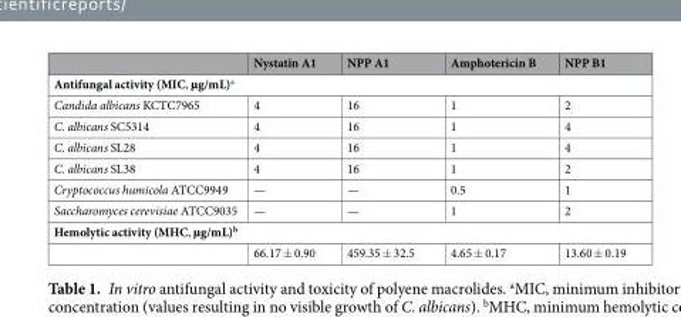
<table><thead><tr><td></td><td>Nystatin A1</td><td>NPP A1</td><td>Amphotericin B</td><td>NPP B1</td></tr></thead><tbody><tr><td colspan="5">Antifungal activity (MIC, µg/mL)<sup>a</sup></td></tr><tr><td>Candida albicans KCTC7965</td><td>4</td><td>16</td><td>1</td><td>2</td></tr><tr><td>C. albicans SC5314</td><td>4</td><td>16</td><td>1</td><td>4</td></tr><tr><td>C. albicans SL28</td><td>4</td><td>16</td><td>1</td><td>4</td></tr><tr><td>C. albicans SL38</td><td>4</td><td>16</td><td>1</td><td>2</td></tr><tr><td>Cryptococcus humicola ATCC9949</td><td>—</td><td>—</td><td>0.5</td><td>1</td></tr><tr><td>Saccharomyces cerevisiae ATCC9035</td><td>—</td><td>—</td><td>1</td><td>2</td></tr><tr><td colspan="5">Hemolytic activity (MHC, µg/mL)<sup>b</sup></td></tr><tr><td></td><td>66.17 ± 0.90</td><td>459.35 ± 32.5</td><td>4.65 ± 0.17</td><td>13.60 ± 0.19</td></tr></tbody></table>